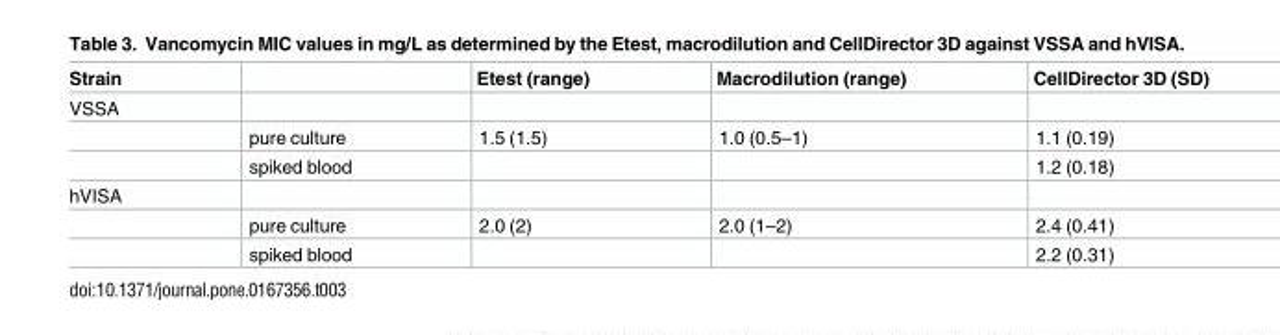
<table><thead><tr><td>Strain</td><td></td><td>Etest (range)</td><td>Macrodilution (range)</td><td>CellDirector 3D (SD)</td></tr></thead><tbody><tr><td colspan="5">VSSA</td></tr><tr><td></td><td>pure culture</td><td>1.5 (1.5)</td><td>1.0 (0.5–1)</td><td>1.1 (0.19)</td></tr><tr><td></td><td>spiked blood</td><td></td><td></td><td>1.2 (0.18)</td></tr><tr><td colspan="5">hVISA</td></tr><tr><td></td><td>pure culture</td><td>2.0 (2)</td><td>2.0 (1–2)</td><td>2.4 (0.41)</td></tr><tr><td></td><td>spiked blood</td><td></td><td></td><td>2.2 (0.31)</td></tr></tbody></table>